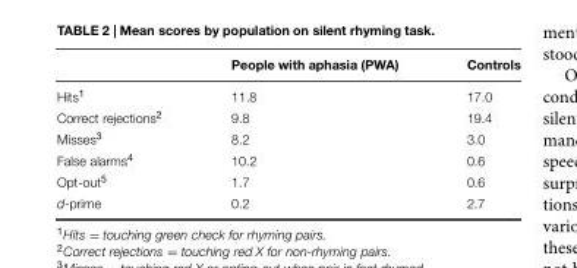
<table><thead><tr><td></td><td>People with aphasia (PWA)</td><td>Controls</td></tr></thead><tbody><tr><td>Hits<sup>1</sup></td><td>11.8</td><td>17.0</td></tr><tr><td>Correct rejections<sup>2</sup></td><td>9.8</td><td>19.4</td></tr><tr><td>Misses<sup>3</sup></td><td>8.2</td><td>3.0</td></tr><tr><td>False alarms<sup>4</sup></td><td>10.2</td><td>0.6</td></tr><tr><td>Opt-out<sup>5</sup></td><td>1.7</td><td>0.6</td></tr><tr><td>d-prime</td><td>0.2</td><td>2.7</td></tr></tbody></table>